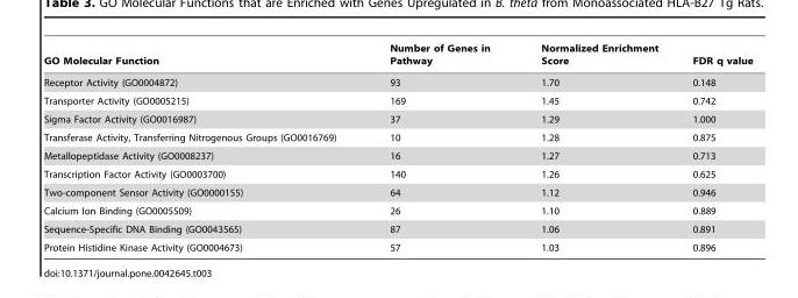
<table><thead><tr><td>GO Molecular Function</td><td>Number of Genes in Pathway</td><td>Normalized Enrichment Score</td><td>FDR q value</td></tr></thead><tbody><tr><td>Receptor Activity (GO0004872)</td><td>93</td><td>1.70</td><td>0.148</td></tr><tr><td>Transporter Activity (GO0005215)</td><td>169</td><td>1.45</td><td>0.742</td></tr><tr><td>Sigma Factor Activity (GO0016987)</td><td>37</td><td>1.29</td><td>1.000</td></tr><tr><td>Transferase Activity, Transferring Nitrogenous Groups (GO0016769)</td><td>10</td><td>1.28</td><td>0.875</td></tr><tr><td>Metallopeptidase Activity (GO0008237)</td><td>16</td><td>1.27</td><td>0.713</td></tr><tr><td>Transcription Factor Activity (GO0003700)</td><td>140</td><td>1.26</td><td>0.625</td></tr><tr><td>Two-component Sensor Activity (GO0000155)</td><td>64</td><td>1.12</td><td>0.946</td></tr><tr><td>Calcium Ion Binding (GO0005509)</td><td>26</td><td>1.10</td><td>0.889</td></tr><tr><td>Sequence-Specific DNA Binding (GO0043565)</td><td>87</td><td>1.06</td><td>0.891</td></tr><tr><td>Protein Histidine Kinase Activity (GO0004673)</td><td>57</td><td>1.03</td><td>0.896</td></tr></tbody></table>